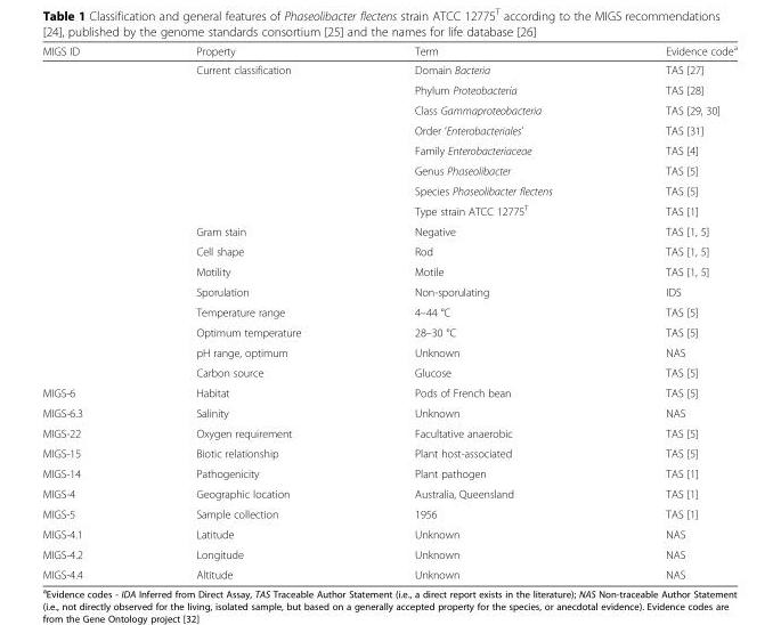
<table><thead><tr><td>MIGS ID</td><td>Property</td><td>Term</td><td>Evidence code<sup>a</sup></td></tr></thead><tbody><tr><td></td><td>Current classification</td><td>Domain Bacteria</td><td>TAS [27]</td></tr><tr><td></td><td></td><td>Phylum Proteobacteria</td><td>TAS [28]</td></tr><tr><td></td><td></td><td>Class Gammaproteobacteria</td><td>TAS [29, 30]</td></tr><tr><td></td><td></td><td>Order ‘Enterobacteriales’</td><td>TAS [31]</td></tr><tr><td></td><td></td><td>Family Enterobacteriaceae</td><td>TAS [4]</td></tr><tr><td></td><td></td><td>Genus Phaseolibacter</td><td>TAS [5]</td></tr><tr><td></td><td></td><td>Species Phaseolibacter flectens</td><td>TAS [5]</td></tr><tr><td></td><td></td><td>Type strain ATCC 12775<sup>T</sup></td><td>TAS [1]</td></tr><tr><td></td><td>Gram stain</td><td>Negative</td><td>TAS [1, 5]</td></tr><tr><td></td><td>Cell shape</td><td>Rod</td><td>TAS [1, 5]</td></tr><tr><td></td><td>Motility</td><td>Motile</td><td>TAS [1, 5]</td></tr><tr><td></td><td>Sporulation</td><td>Non-sporulating</td><td>IDS</td></tr><tr><td></td><td>Temperature range</td><td>4–44 °C</td><td>TAS [5]</td></tr><tr><td></td><td>Optimum temperature</td><td>28–30 °C</td><td>TAS [5]</td></tr><tr><td></td><td>pH range, optimum</td><td>Unknown</td><td>NAS</td></tr><tr><td></td><td>Carbon source</td><td>Glucose</td><td>TAS [5]</td></tr><tr><td>MIGS-6</td><td>Habitat</td><td>Pods of French bean</td><td>TAS [5]</td></tr><tr><td>MIGS-6.3</td><td>Salinity</td><td>Unknown</td><td>NAS</td></tr><tr><td>MIGS-22</td><td>Oxygen requirement</td><td>Facultative anaerobic</td><td>TAS [5]</td></tr><tr><td>MIGS-15</td><td>Biotic relationship</td><td>Plant host-associated</td><td>TAS [5]</td></tr><tr><td>MIGS-14</td><td>Pathogenicity</td><td>Plant pathogen</td><td>TAS [1]</td></tr><tr><td>MIGS-4</td><td>Geographic location</td><td>Australia, Queensland</td><td>TAS [1]</td></tr><tr><td>MIGS-5</td><td>Sample collection</td><td>1956</td><td>TAS [1]</td></tr><tr><td>MIGS-4.1</td><td>Latitude</td><td>Unknown</td><td>NAS</td></tr><tr><td>MIGS-4.2</td><td>Longitude</td><td>Unknown</td><td>NAS</td></tr><tr><td>MIGS-4.4</td><td>Altitude</td><td>Unknown</td><td>NAS</td></tr></tbody></table>